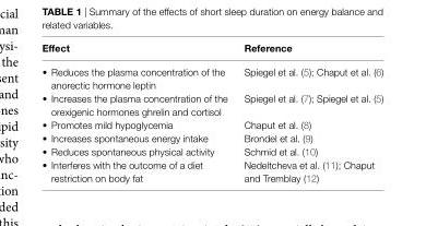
<table><thead><tr><td>effect</td><td>reference</td></tr></thead><tbody><tr><td>• Reduces the plasma concentration of the anorectic hormone leptin</td><td>Spiegel et al. (5); Chaput et al. (6)</td></tr><tr><td>• Increases the plasma concentration of the orexigenic hormones ghrelin and cortisol</td><td>Spiegel et al. (7); Spiegel et al. (5)</td></tr><tr><td>• Promotes mild hypoglycemia</td><td>Chaput et al. (8)</td></tr><tr><td>• Increases spontaneous energy intake</td><td>Brondel et al. (9)</td></tr><tr><td>• Reduces spontaneous physical activity</td><td>Schmid et al. (10)</td></tr><tr><td>• Interferes with the outcome of a diet restriction on body fat</td><td>Nedeltcheva et al. (11); Chaput and Tremblay (12)</td></tr></tbody></table>